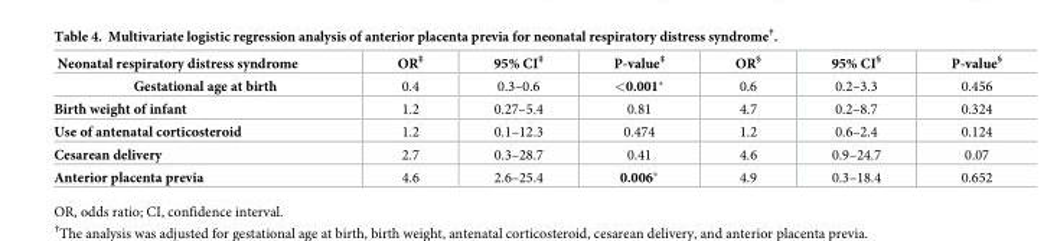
<table><thead><tr><td>Neonatal respiratory distress syndrome</td><td>OR<sup>‡</sup></td><td>95% CI<sup>‡</sup></td><td>P-value<sup>‡</sup></td><td>OR<sup>§</sup></td><td>95% CI<sup>§</sup></td><td>P-value<sup>§</sup></td></tr></thead><tbody><tr><td>Gestational age at birth</td><td>0.4</td><td>0.3–0.6</td><td>&lt;0.001*</td><td>0.6</td><td>0.2–3.3</td><td>0.456</td></tr><tr><td>Birth weight of infant</td><td>1.2</td><td>0.27–5.4</td><td>0.81</td><td>4.7</td><td>0.2–8.7</td><td>0.324</td></tr><tr><td>Use of antenatal corticosteroid</td><td>1.2</td><td>0.1–12.3</td><td>0.474</td><td>1.2</td><td>0.6–2.4</td><td>0.124</td></tr><tr><td>Cesarean delivery</td><td>2.7</td><td>0.3–28.7</td><td>0.41</td><td>4.6</td><td>0.9–24.7</td><td>0.07</td></tr><tr><td>Anterior placenta previa</td><td>4.6</td><td>2.6–25.4</td><td>0.006*</td><td>4.9</td><td>0.3–18.4</td><td>0.652</td></tr></tbody></table>